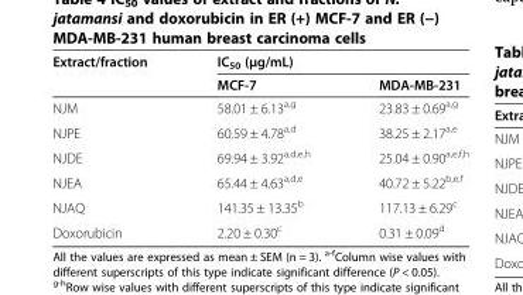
<table><thead><tr><td rowspan="2">Extract/fraction</td><td colspan="2">IC<sub>50</sub> (μg/mL)</td></tr><tr><td>MCF-7</td><td>MDA-MB-231</td></tr></thead><tbody><tr><td>NJM</td><td>58.01 ± 6.13<sup>a,g</sup></td><td>23.83 ± 0.69<sup>a,g</sup></td></tr><tr><td>NJPE</td><td>60.59 ± 4.78<sup>a,d</sup></td><td>38.25 ± 2.17<sup>a,e</sup></td></tr><tr><td>NJDE</td><td>69.94 ± 3.92<sup>a,d,e,h</sup></td><td>25.04 ± 0.90<sup>a,e,f,h</sup></td></tr><tr><td>NJEA</td><td>65.44 ± 4.63<sup>a,d,e</sup></td><td>40.72 ± 5.22<sup>b,e,f</sup></td></tr><tr><td>NJAQ</td><td>141.35 ± 13.35<sup>b</sup></td><td>117.13 ± 6.29<sup>c</sup></td></tr><tr><td>Doxorubicin</td><td>2.20 ± 0.30<sup>c</sup></td><td>0.31 ± 0.09<sup>d</sup></td></tr></tbody></table>